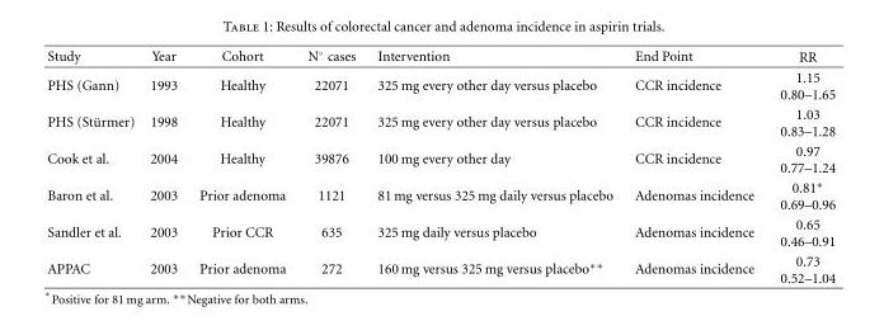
<table><thead><tr><td>Study</td><td>Year</td><td>Cohort</td><td>N◦ cases</td><td>Intervention</td><td>End Point</td><td>RR</td></tr></thead><tbody><tr><td>PHS (Gann)</td><td>1993</td><td>Healthy</td><td>22071</td><td>325 mg every other day versus placebo</td><td>CCR incidence</td><td>1.15 0.80–1.65</td></tr><tr><td>PHS (St¨urmer)</td><td>1998</td><td>Healthy</td><td>22071</td><td>325 mg every other day versus placebo</td><td>CCR incidence</td><td>1.03 0.83–1.28</td></tr><tr><td>Cook et al.</td><td>2004</td><td>Healthy</td><td>39876</td><td>100 mg every other day</td><td>CCR incidence</td><td>0.97 0.77–1.24</td></tr><tr><td>Baron et al.</td><td>2003</td><td>Prior adenoma</td><td>1121</td><td>81 mg versus 325 mg daily versus placebo</td><td>Adenomas incidence</td><td>0.81∗ 0.69–0.96</td></tr><tr><td>Sandler et al.</td><td>2003</td><td>Prior CCR</td><td>635</td><td>325 mg daily versus placebo</td><td>Adenomas incidence</td><td>0.65 0.46–0.91</td></tr><tr><td>APPAC</td><td>2003</td><td>Prior adenoma</td><td>272</td><td>160 mg versus 325 mg versus placebo∗∗</td><td>Adenomas incidence</td><td>0.73 0.52–1.04</td></tr></tbody></table>